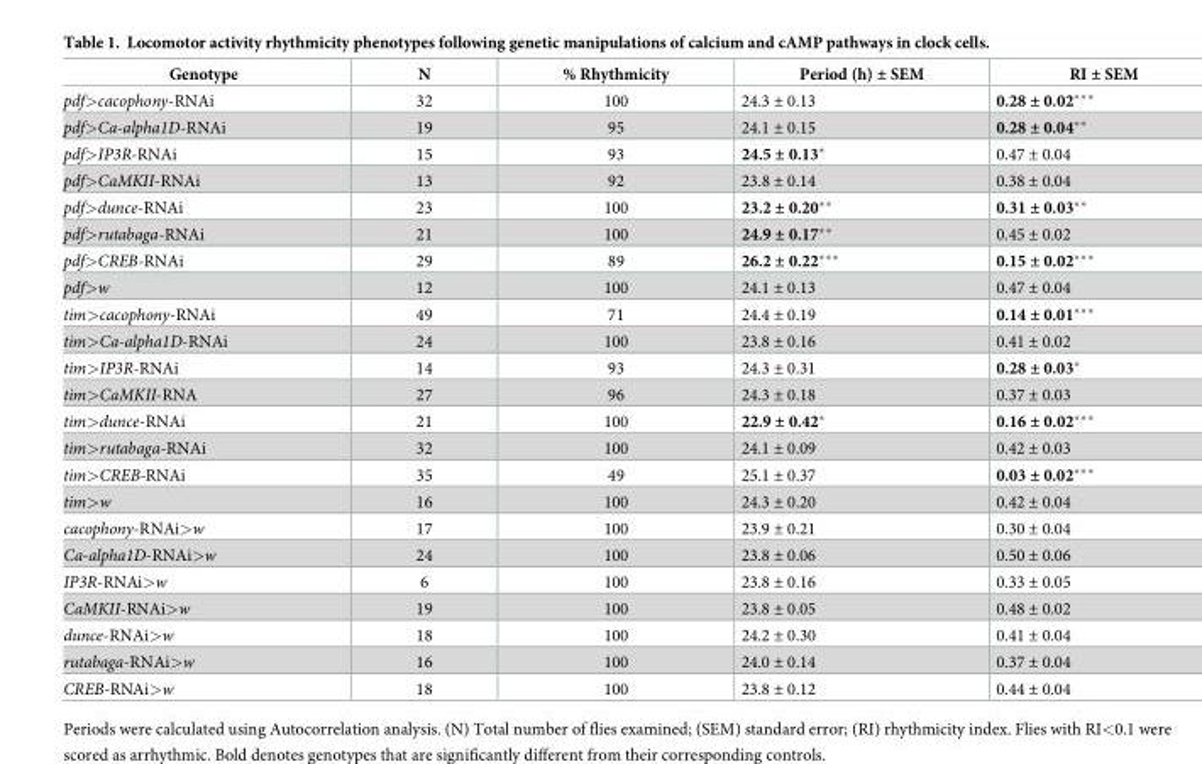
<table><thead><tr><td>Genotype</td><td>N</td><td>% Rhythmicity</td><td>Period (h) ± SEM</td><td>RI ± SEM</td></tr></thead><tbody><tr><td>pdf&gt;cacophony-RNAi</td><td>32</td><td>100</td><td>24.3 ± 0.13</td><td>0.28 ± 0.02***</td></tr><tr><td>pdf&gt;Ca-alpha1D-RNAi</td><td>19</td><td>95</td><td>24.1 ± 0.15</td><td>0.28 ± 0.04**</td></tr><tr><td>pdf&gt;IP3R-RNAi</td><td>15</td><td>93</td><td>24.5 ± 0.13*</td><td>0.47 ± 0.04</td></tr><tr><td>pdf&gt;CaMKII-RNAi</td><td>13</td><td>92</td><td>23.8 ± 0.14</td><td>0.38 ± 0.04</td></tr><tr><td>pdf&gt;dunce-RNAi</td><td>23</td><td>100</td><td>23.2 ± 0.20**</td><td>0.31 ± 0.03**</td></tr><tr><td>pdf&gt;rutabaga-RNAi</td><td>21</td><td>100</td><td>24.9 ± 0.17**</td><td>0.45 ± 0.02</td></tr><tr><td>pdf&gt;CREB-RNAi</td><td>29</td><td>89</td><td>26.2 ± 0.22***</td><td>0.15 ± 0.02***</td></tr><tr><td>pdf&gt;w</td><td>12</td><td>100</td><td>24.1 ± 0.13</td><td>0.47 ± 0.04</td></tr><tr><td>tim&gt;cacophony-RNAi</td><td>49</td><td>71</td><td>24.4 ± 0.19</td><td>0.14 ± 0.01***</td></tr><tr><td>tim&gt;Ca-alpha1D-RNAi</td><td>24</td><td>100</td><td>23.8 ± 0.16</td><td>0.41 ± 0.02</td></tr><tr><td>tim&gt;IP3R-RNAi</td><td>14</td><td>93</td><td>24.3 ± 0.31</td><td>0.28 ± 0.03*</td></tr><tr><td>tim&gt;CaMKII-RNA</td><td>27</td><td>96</td><td>24.3 ± 0.18</td><td>0.37 ± 0.03</td></tr><tr><td>tim&gt;dunce-RNAi</td><td>21</td><td>100</td><td>22.9 ± 0.42*</td><td>0.16 ± 0.02***</td></tr><tr><td>tim&gt;rutabaga-RNAi</td><td>32</td><td>100</td><td>24.1 ± 0.09</td><td>0.42 ± 0.03</td></tr><tr><td>tim&gt;CREB-RNAi</td><td>35</td><td>49</td><td>25.1 ± 0.37</td><td>0.03 ± 0.02***</td></tr><tr><td>tim&gt;w</td><td>16</td><td>100</td><td>24.3 ± 0.20</td><td>0.42 ± 0.04</td></tr><tr><td>cacophony-RNAi&gt;w</td><td>17</td><td>100</td><td>23.9 ± 0.21</td><td>0.30 ± 0.04</td></tr><tr><td>Ca-alpha1D-RNAi&gt;w</td><td>24</td><td>100</td><td>23.8 ± 0.06</td><td>0.50 ± 0.06</td></tr><tr><td>IP3R-RNAi&gt;w</td><td>6</td><td>100</td><td>23.8 ± 0.16</td><td>0.33 ± 0.05</td></tr><tr><td>CaMKII-RNAi&gt;w</td><td>19</td><td>100</td><td>23.8 ± 0.05</td><td>0.48 ± 0.02</td></tr><tr><td>dunce-RNAi&gt;w</td><td>18</td><td>100</td><td>24.2 ± 0.30</td><td>0.41 ± 0.04</td></tr><tr><td>rutabaga-RNAi&gt;w</td><td>16</td><td>100</td><td>24.0 ± 0.14</td><td>0.37 ± 0.04</td></tr><tr><td>CREB-RNAi&gt;w</td><td>18</td><td>100</td><td>23.8 ± 0.12</td><td>0.44 ± 0.04</td></tr></tbody></table>